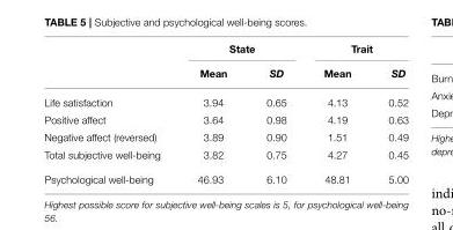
<table><thead><tr><td rowspan="2"></td><td colspan="2">State</td><td colspan="2">Trait</td></tr><tr><td>Mean</td><td>SD</td><td>Mean</td><td>SD</td></tr></thead><tbody><tr><td>Life satisfaction</td><td>3.94</td><td>0.65</td><td>4.13</td><td>0.52</td></tr><tr><td>Positive affect</td><td>3.64</td><td>0.98</td><td>4.19</td><td>0.63</td></tr><tr><td>Negative affect (reversed)</td><td>3.89</td><td>0.90</td><td>1.51</td><td>0.49</td></tr><tr><td>Total subjective well-being</td><td>3.82</td><td>0.75</td><td>4.27</td><td>0.45</td></tr><tr><td>Psychological well-being</td><td>46.93</td><td>6.10</td><td>48.81</td><td>5.00</td></tr></tbody></table>